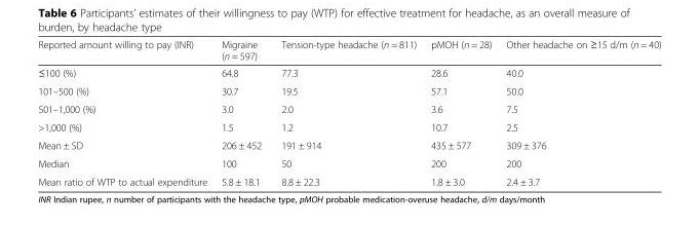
<table><thead><tr><td>Reported amount willing to pay (INR)</td><td>Migraine (n = 597)</td><td>Tension-type headache (n = 811)</td><td>pMOH (n = 28)</td><td>Other headache on ≥15 d/m (n = 40)</td></tr></thead><tbody><tr><td>≤100 (%)</td><td>64.8</td><td>77.3</td><td>28.6</td><td>40.0</td></tr><tr><td>101–500 (%)</td><td>30.7</td><td>19.5</td><td>57.1</td><td>50.0</td></tr><tr><td>501–1,000 (%)</td><td>3.0</td><td>2.0</td><td>3.6</td><td>7.5</td></tr><tr><td>&gt;1,000 (%)</td><td>1.5</td><td>1.2</td><td>10.7</td><td>2.5</td></tr><tr><td>Mean ± SD</td><td>206 ± 452</td><td>191 ± 914</td><td>435 ± 577</td><td>309 ± 376</td></tr><tr><td>Median</td><td>100</td><td>50</td><td>200</td><td>200</td></tr><tr><td>Mean ratio of WTP to actual expenditure</td><td>5.8 ± 18.1</td><td>8.8 ± 22.3</td><td>1.8 ± 3.0</td><td>2.4 ± 3.7</td></tr></tbody></table>